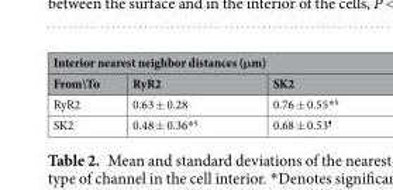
<table><thead><tr><td colspan="3">Interior nearest neighbor distances (μm)</td></tr><tr><td>From\To</td><td>RyR2</td><td>SK2</td></tr></thead><tbody><tr><td>RyR2</td><td>0.63 ± 0.28</td><td>0.76 ± 0.55*<sup>§</sup></td></tr><tr><td>SK2</td><td>0.48 ± 0.36*<sup>§</sup></td><td>0.68 ± 0.53<sup>¶</sup></td></tr></tbody></table>